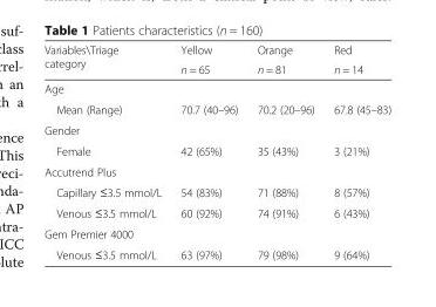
<table><thead><tr><td rowspan="2">Variables\Triage category</td><td rowspan="2">Yellow n = 65</td><td rowspan="2">Orange n = 81</td><td rowspan="2">Red n = 14</td></tr><tr></tr></thead><tbody><tr><td colspan="4">Age</td></tr><tr><td>Mean (Range)</td><td>70.7 (40–96)</td><td>70.2 (20–96)</td><td>67.8 (45–83)</td></tr><tr><td colspan="4">Gender</td></tr><tr><td>Female</td><td>42 (65%)</td><td>35 (43%)</td><td>3 (21%)</td></tr><tr><td colspan="4">Accutrend Plus</td></tr><tr><td>Capillary ≤3.5 mmol/L</td><td>54 (83%)</td><td>71 (88%)</td><td>8 (57%)</td></tr><tr><td>Venous ≤3.5 mmol/L</td><td>60 (92%)</td><td>74 (91%)</td><td>6 (43%)</td></tr><tr><td colspan="4">Gem Premier 4000</td></tr><tr><td>Venous ≤3.5 mmol/L</td><td>63 (97%)</td><td>79 (98%)</td><td>9 (64%)</td></tr></tbody></table>